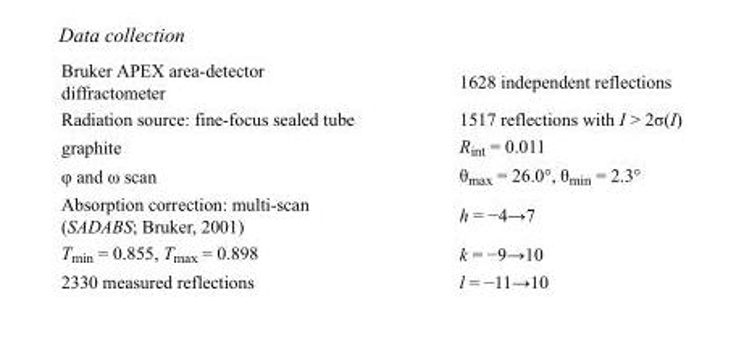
<table><tbody><tr><td>Bruker APEX area-detector diffractometer</td><td>1628 independent reflections</td></tr><tr><td>Radiation source: fine-focus sealed tube</td><td>1517 reflections with I &gt; 2σ(I)</td></tr><tr><td>graphite</td><td>R<sub>int</sub> = 0.011</td></tr><tr><td>φ and ω scan</td><td>θ<sub>max</sub> = 26.0°, θ<sub>min</sub> = 2.3°</td></tr><tr><td>Absorption correction: multi-scan (SADABS; Bruker, 2001)</td><td>h = −4→7</td></tr><tr><td>T<sub>min</sub> = 0.855, T<sub>max</sub> = 0.898</td><td>k = −9→10</td></tr><tr><td>2330 measured reflections</td><td>l = −11→10</td></tr></tbody></table>